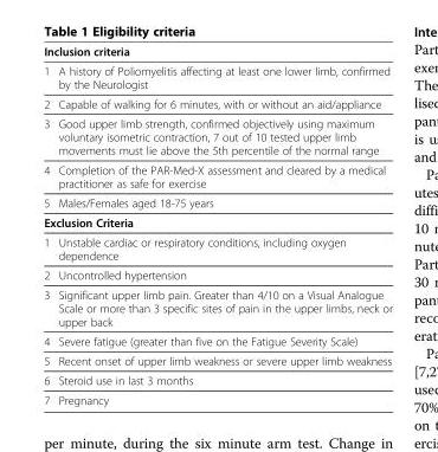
<table><thead><tr><td colspan="2">Inclusion criteria</td></tr><tr><td>1</td><td>A history of Poliomyelitis affecting at least one lower limb, confirmed by the Neurologist</td></tr></thead><tbody><tr><td>2</td><td>Capable of walking for 6 minutes, with or without an aid/appliance</td></tr><tr><td>3</td><td>Good upper limb strength, confirmed objectively using maximum voluntary isometric contraction, 7 out of 10 tested upper limb movements must lie above the 5th percentile of the normal range</td></tr><tr><td>4</td><td>Completion of the PAR-Med-X assessment and cleared by a medical practitioner as safe for exercise</td></tr><tr><td>5</td><td>Males/Females aged 18-75 years</td></tr><tr><td colspan="2">Exclusion Criteria</td></tr><tr><td>1</td><td>Unstable cardiac or respiratory conditions, including oxygen dependence</td></tr><tr><td>2</td><td>Uncontrolled hypertension</td></tr><tr><td>3</td><td>Significant upper limb pain. Greater than 4/10 on a Visual Analogue Scale or more than 3 specific sites of pain in the upper limbs, neck or upper back</td></tr><tr><td>4</td><td>Severe fatigue (greater than five on the Fatigue Severity Scale)</td></tr><tr><td>5</td><td>Recent onset of upper limb weakness or severe upper limb weakness</td></tr><tr><td>6</td><td>Steroid use in last 3 months</td></tr><tr><td>7</td><td>Pregnancy</td></tr></tbody></table>